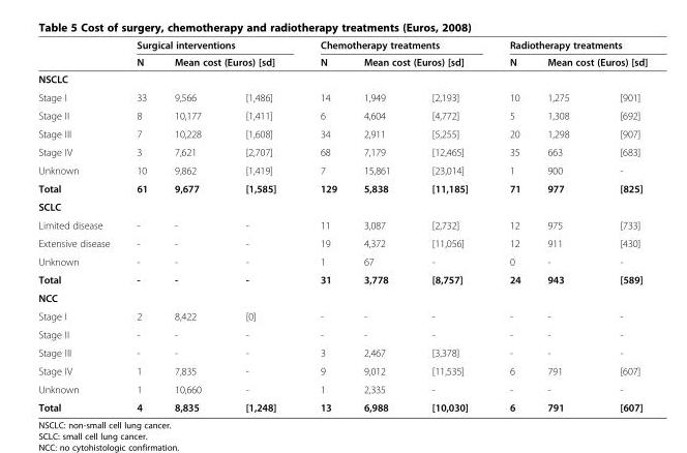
<table><thead><tr><td rowspan="3">NSCLC</td><td colspan="3">Surgical interventions</td><td colspan="3">Chemotherapy treatments</td><td colspan="3">Radiotherapy treatments</td></tr><tr><td rowspan="2">N</td><td colspan="2">Mean cost (Euros) [sd]</td><td rowspan="2">N</td><td colspan="2">Mean cost (Euros) [sd]</td><td rowspan="2">N</td><td colspan="2">Mean cost (Euros) [sd]</td></tr><tr><td></td><td></td><td></td><td></td><td></td><td></td></tr></thead><tbody><tr><td>Stage I</td><td>33</td><td>9,566</td><td>[1,486]</td><td>14</td><td>1,949</td><td>[2,193]</td><td>10</td><td>1,275</td><td>[901]</td></tr><tr><td>Stage II</td><td>8</td><td>10,177</td><td>[1,411]</td><td>6</td><td>4,604</td><td>[4,772]</td><td>5</td><td>1,308</td><td>[692]</td></tr><tr><td>Stage III</td><td>7</td><td>10,228</td><td>[1,608]</td><td>34</td><td>2,911</td><td>[5,255]</td><td>20</td><td>1,298</td><td>[907]</td></tr><tr><td>Stage IV</td><td>3</td><td>7,621</td><td>[2,707]</td><td>68</td><td>7,179</td><td>[12,465]</td><td>35</td><td>663</td><td>[683]</td></tr><tr><td>Unknown</td><td>10</td><td>9,862</td><td>[1,419]</td><td>7</td><td>15,861</td><td>[23,014]</td><td>1</td><td>900</td><td>-</td></tr><tr><td>Total</td><td>61</td><td>9,677</td><td>[1,585]</td><td>129</td><td>5,838</td><td>[11,185]</td><td>71</td><td>977</td><td>[825]</td></tr><tr><td colspan="10">SCLC</td></tr><tr><td>Limited disease</td><td>-</td><td>-</td><td>-</td><td>11</td><td>3,087</td><td>[2,732]</td><td>12</td><td>975</td><td>[733]</td></tr><tr><td>Extensive disease</td><td>-</td><td>-</td><td>-</td><td>19</td><td>4,372</td><td>[11,056]</td><td>12</td><td>911</td><td>[430]</td></tr><tr><td>Unknown</td><td>-</td><td>-</td><td>-</td><td>1</td><td>67</td><td>-</td><td>0</td><td>-</td><td>-</td></tr><tr><td>Total</td><td>-</td><td>-</td><td>-</td><td>31</td><td>3,778</td><td>[8,757]</td><td>24</td><td>943</td><td>[589]</td></tr><tr><td colspan="10">NCC</td></tr><tr><td>Stage I</td><td>2</td><td>8,422</td><td>[0]</td><td>-</td><td>-</td><td>-</td><td>-</td><td>-</td><td>-</td></tr><tr><td>Stage II</td><td>-</td><td>-</td><td>-</td><td>-</td><td>-</td><td>-</td><td>-</td><td>-</td><td>-</td></tr><tr><td>Stage III</td><td>-</td><td>-</td><td>-</td><td>3</td><td>2,467</td><td>[3,378]</td><td>-</td><td>-</td><td>-</td></tr><tr><td>Stage IV</td><td>1</td><td>7,835</td><td>-</td><td>9</td><td>9,012</td><td>[11,535]</td><td>6</td><td>791</td><td>[607]</td></tr><tr><td>Unknown</td><td>1</td><td>10,660</td><td>-</td><td>1</td><td>2,335</td><td>-</td><td>-</td><td>-</td><td>-</td></tr><tr><td>Total</td><td>4</td><td>8,835</td><td>[1,248]</td><td>13</td><td>6,988</td><td>[10,030]</td><td>6</td><td>791</td><td>[607]</td></tr></tbody></table>